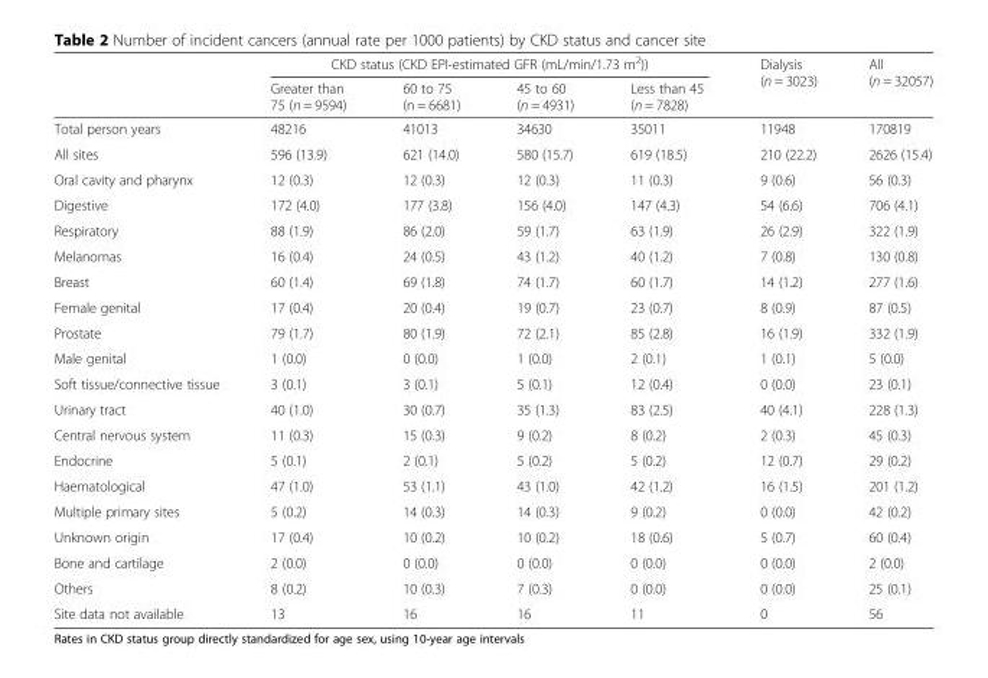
<table><thead><tr><td rowspan="2"></td><td colspan="4">CKD status (CKD EPI-estimated GFR (mL/min/1.73 m<sup>2</sup>))</td><td rowspan="2">Dialysis (n = 3023)</td><td rowspan="2">All (n = 32057)</td></tr><tr><td>Greater than 75 (n = 9594)</td><td>60 to 75 (n = 6681)</td><td>45 to 60 (n = 4931)</td><td>Less than 45 (n = 7828)</td></tr></thead><tbody><tr><td>Total person years</td><td>48216</td><td>41013</td><td>34630</td><td>35011</td><td>11948</td><td>170819</td></tr><tr><td>All sites</td><td>596 (13.9)</td><td>621 (14.0)</td><td>580 (15.7)</td><td>619 (18.5)</td><td>210 (22.2)</td><td>2626 (15.4)</td></tr><tr><td>Oral cavity and pharynx</td><td>12 (0.3)</td><td>12 (0.3)</td><td>12 (0.3)</td><td>11 (0.3)</td><td>9 (0.6)</td><td>56 (0.3)</td></tr><tr><td>Digestive</td><td>172 (4.0)</td><td>177 (3.8)</td><td>156 (4.0)</td><td>147 (4.3)</td><td>54 (6.6)</td><td>706 (4.1)</td></tr><tr><td>Respiratory</td><td>88 (1.9)</td><td>86 (2.0)</td><td>59 (1.7)</td><td>63 (1.9)</td><td>26 (2.9)</td><td>322 (1.9)</td></tr><tr><td>Melanomas</td><td>16 (0.4)</td><td>24 (0.5)</td><td>43 (1.2)</td><td>40 (1.2)</td><td>7 (0.8)</td><td>130 (0.8)</td></tr><tr><td>Breast</td><td>60 (1.4)</td><td>69 (1.8)</td><td>74 (1.7)</td><td>60 (1.7)</td><td>14 (1.2)</td><td>277 (1.6)</td></tr><tr><td>Female genital</td><td>17 (0.4)</td><td>20 (0.4)</td><td>19 (0.7)</td><td>23 (0.7)</td><td>8 (0.9)</td><td>87 (0.5)</td></tr><tr><td>Prostate</td><td>79 (1.7)</td><td>80 (1.9)</td><td>72 (2.1)</td><td>85 (2.8)</td><td>16 (1.9)</td><td>332 (1.9)</td></tr><tr><td>Male genital</td><td>1 (0.0)</td><td>0 (0.0)</td><td>1 (0.0)</td><td>2 (0.1)</td><td>1 (0.1)</td><td>5 (0.0)</td></tr><tr><td>Soft tissue/connective tissue</td><td>3 (0.1)</td><td>3 (0.1)</td><td>5 (0.1)</td><td>12 (0.4)</td><td>0 (0.0)</td><td>23 (0.1)</td></tr><tr><td>Urinary tract</td><td>40 (1.0)</td><td>30 (0.7)</td><td>35 (1.3)</td><td>83 (2.5)</td><td>40 (4.1)</td><td>228 (1.3)</td></tr><tr><td>Central nervous system</td><td>11 (0.3)</td><td>15 (0.3)</td><td>9 (0.2)</td><td>8 (0.2)</td><td>2 (0.3)</td><td>45 (0.3)</td></tr><tr><td>Endocrine</td><td>5 (0.1)</td><td>2 (0.1)</td><td>5 (0.2)</td><td>5 (0.2)</td><td>12 (0.7)</td><td>29 (0.2)</td></tr><tr><td>Haematological</td><td>47 (1.0)</td><td>53 (1.1)</td><td>43 (1.0)</td><td>42 (1.2)</td><td>16 (1.5)</td><td>201 (1.2)</td></tr><tr><td>Multiple primary sites</td><td>5 (0.2)</td><td>14 (0.3)</td><td>14 (0.3)</td><td>9 (0.2)</td><td>0 (0.0)</td><td>42 (0.2)</td></tr><tr><td>Unknown origin</td><td>17 (0.4)</td><td>10 (0.2)</td><td>10 (0.2)</td><td>18 (0.6)</td><td>5 (0.7)</td><td>60 (0.4)</td></tr><tr><td>Bone and cartilage</td><td>2 (0.0)</td><td>0 (0.0)</td><td>0 (0.0)</td><td>0 (0.0)</td><td>0 (0.0)</td><td>2 (0.0)</td></tr><tr><td>Others</td><td>8 (0.2)</td><td>10 (0.3)</td><td>7 (0.3)</td><td>0 (0.0)</td><td>0 (0.0)</td><td>25 (0.1)</td></tr><tr><td>Site data not available</td><td>13</td><td>16</td><td>16</td><td>11</td><td>0</td><td>56</td></tr></tbody></table>